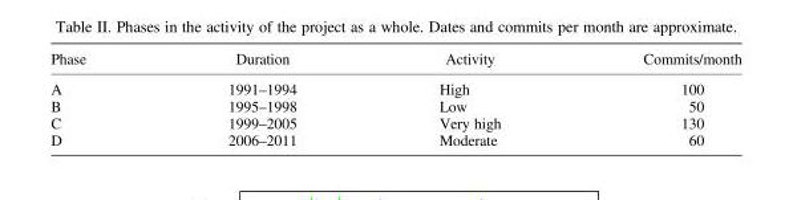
<table><thead><tr><td>Phase</td><td>Duration</td><td>Activity</td><td>Commits/month</td></tr></thead><tbody><tr><td>A</td><td>1991–1994</td><td>High</td><td>100</td></tr><tr><td>B</td><td>1995–1998</td><td>Low</td><td>50</td></tr><tr><td>C</td><td>1999–2005</td><td>Very high</td><td>130</td></tr><tr><td>D</td><td>2006–2011</td><td>Moderate</td><td>60</td></tr></tbody></table>